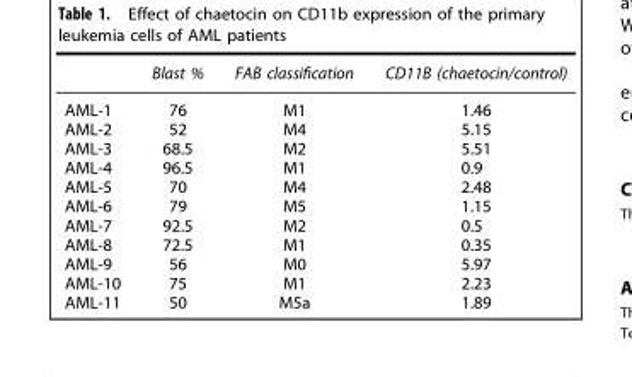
<table><thead><tr><td></td><td>Blast %</td><td>FAB classification</td><td>CD11B (chaetocin/control)</td></tr></thead><tbody><tr><td>AML-1</td><td>76</td><td>M1</td><td>1.46</td></tr><tr><td>AML-2</td><td>52</td><td>M4</td><td>5.15</td></tr><tr><td>AML-3</td><td>68.5</td><td>M2</td><td>5.51</td></tr><tr><td>AML-4</td><td>96.5</td><td>M1</td><td>0.9</td></tr><tr><td>AML-5</td><td>70</td><td>M4</td><td>2.48</td></tr><tr><td>AML-6</td><td>79</td><td>M5</td><td>1.15</td></tr><tr><td>AML-7</td><td>92.5</td><td>M2</td><td>0.5</td></tr><tr><td>AML-8</td><td>72.5</td><td>M1</td><td>0.35</td></tr><tr><td>AML-9</td><td>56</td><td>M0</td><td>5.97</td></tr><tr><td>AML-10</td><td>75</td><td>M1</td><td>2.23</td></tr><tr><td>AML-11</td><td>50</td><td>M5a</td><td>1.89</td></tr></tbody></table>